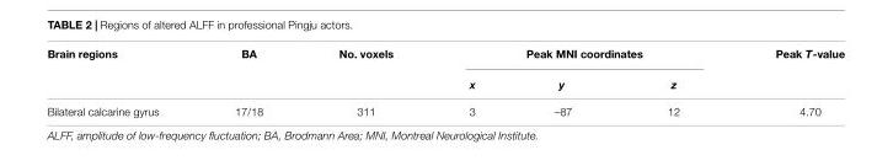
<table><thead><tr><td rowspan="2">Brain regions</td><td rowspan="2">BA</td><td rowspan="2">No. voxels</td><td colspan="3">Peak MNI coordinates</td><td rowspan="2">Peak T-value</td></tr><tr><td>x</td><td>y</td><td>z</td></tr></thead><tbody><tr><td>Bilateral calcarine gyrus</td><td>17/18</td><td>311</td><td>3</td><td>–87</td><td>12</td><td>4.70</td></tr></tbody></table>